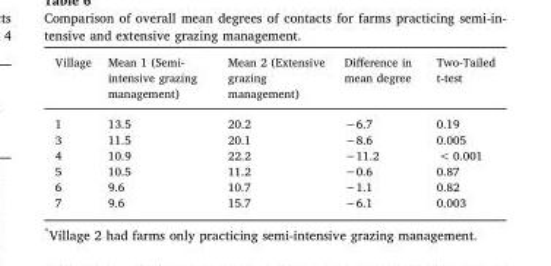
<table><thead><tr><td>Village</td><td>Mean 1 (Semi- intensive grazing management)</td><td>Mean 2 (Extensive grazing management)</td><td>Difference in mean degree</td><td>Two-Tailed t-test</td></tr></thead><tbody><tr><td>1</td><td>13.5</td><td>20.2</td><td>−6.7</td><td>0.19</td></tr><tr><td>3</td><td>11.5</td><td>20.1</td><td>−8.6</td><td>0.005</td></tr><tr><td>4</td><td>10.9</td><td>22.2</td><td>−11.2</td><td>&lt; 0.001</td></tr><tr><td>5</td><td>10.5</td><td>11.2</td><td>−0.6</td><td>0.87</td></tr><tr><td>6</td><td>9.6</td><td>10.7</td><td>−1.1</td><td>0.82</td></tr><tr><td>7</td><td>9.6</td><td>15.7</td><td>−6.1</td><td>0.003</td></tr></tbody></table>